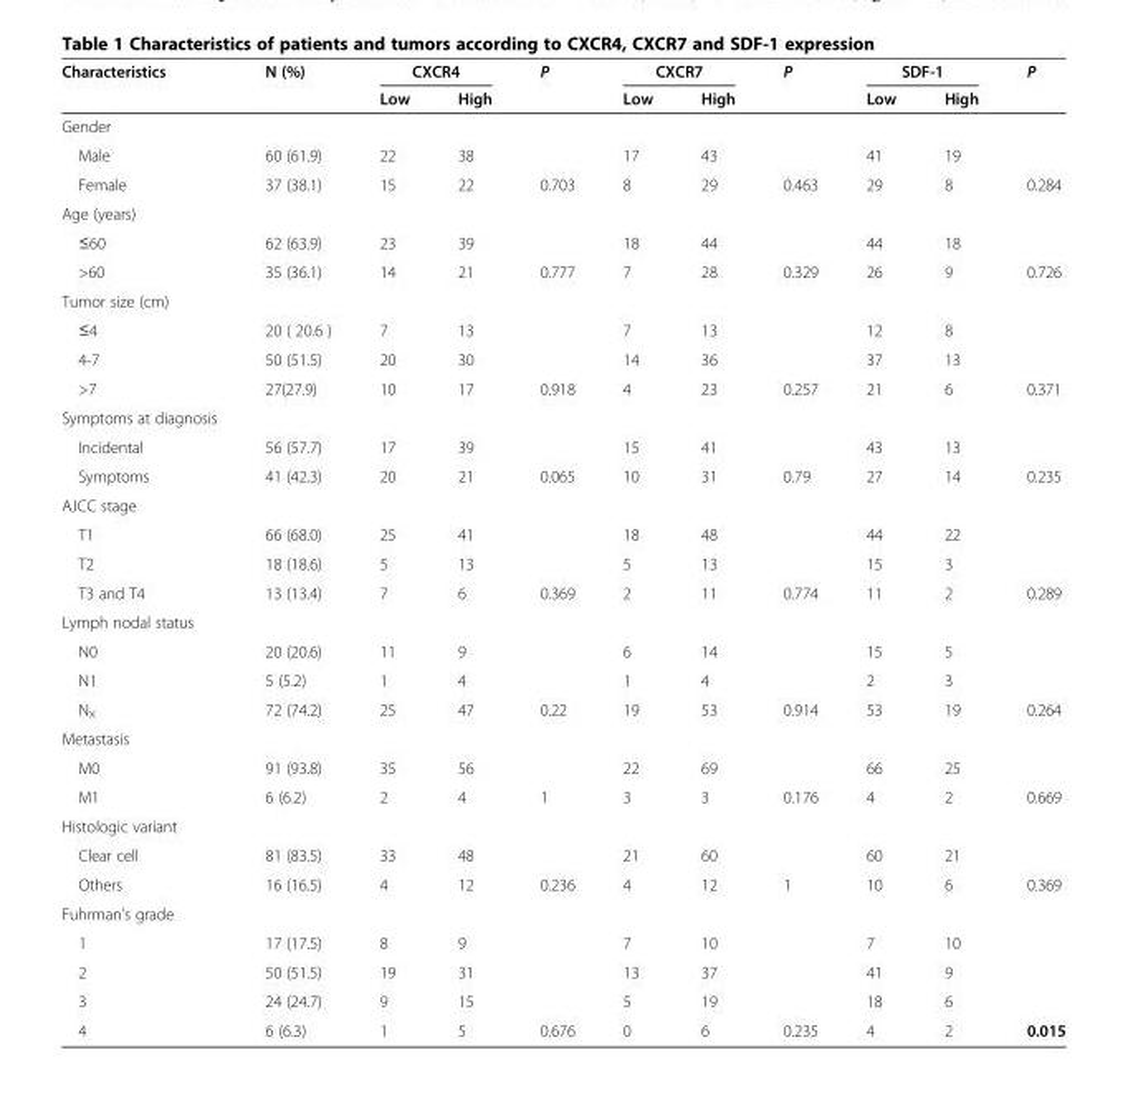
<table><thead><tr><td rowspan="2">Characteristics</td><td rowspan="2">N (%)</td><td colspan="2">CXCR4</td><td rowspan="2">P</td><td colspan="2">CXCR7</td><td rowspan="2">P</td><td colspan="2">SDF-1</td><td rowspan="2">P</td></tr><tr><td>Low</td><td>High</td><td>Low</td><td>High</td><td>Low</td><td>High</td></tr></thead><tbody><tr><td colspan="11">Gender</td></tr><tr><td>Male</td><td>60 (61.9)</td><td>22</td><td>38</td><td></td><td>17</td><td>43</td><td></td><td>41</td><td>19</td><td></td></tr><tr><td>Female</td><td>37 (38.1)</td><td>15</td><td>22</td><td>0.703</td><td>8</td><td>29</td><td>0.463</td><td>29</td><td>8</td><td>0.284</td></tr><tr><td colspan="11">Age (years)</td></tr><tr><td>≤60</td><td>62 (63.9)</td><td>23</td><td>39</td><td></td><td>18</td><td>44</td><td></td><td>44</td><td>18</td><td></td></tr><tr><td>&gt;60</td><td>35 (36.1)</td><td>14</td><td>21</td><td>0.777</td><td>7</td><td>28</td><td>0.329</td><td>26</td><td>9</td><td>0.726</td></tr><tr><td colspan="11">Tumor size (cm)</td></tr><tr><td>≤4</td><td>20 ( 20.6 )</td><td>7</td><td>13</td><td></td><td>7</td><td>13</td><td></td><td>12</td><td>8</td><td></td></tr><tr><td>4-7</td><td>50 (51.5)</td><td>20</td><td>30</td><td></td><td>14</td><td>36</td><td></td><td>37</td><td>13</td><td></td></tr><tr><td>&gt;7</td><td>27(27.9)</td><td>10</td><td>17</td><td>0.918</td><td>4</td><td>23</td><td>0.257</td><td>21</td><td>6</td><td>0.371</td></tr><tr><td colspan="11">Symptoms at diagnosis</td></tr><tr><td>Incidental</td><td>56 (57.7)</td><td>17</td><td>39</td><td></td><td>15</td><td>41</td><td></td><td>43</td><td>13</td><td></td></tr><tr><td>Symptoms</td><td>41 (42.3)</td><td>20</td><td>21</td><td>0.065</td><td>10</td><td>31</td><td>0.79</td><td>27</td><td>14</td><td>0.235</td></tr><tr><td colspan="11">AJCC stage</td></tr><tr><td>T1</td><td>66 (68.0)</td><td>25</td><td>41</td><td></td><td>18</td><td>48</td><td></td><td>44</td><td>22</td><td></td></tr><tr><td>T2</td><td>18 (18.6)</td><td>5</td><td>13</td><td></td><td>5</td><td>13</td><td></td><td>15</td><td>3</td><td></td></tr><tr><td>T3 and T4</td><td>13 (13.4)</td><td>7</td><td>6</td><td>0.369</td><td>2</td><td>11</td><td>0.774</td><td>11</td><td>2</td><td>0.289</td></tr><tr><td colspan="11">Lymph nodal status</td></tr><tr><td>N0</td><td>20 (20.6)</td><td>11</td><td>9</td><td></td><td>6</td><td>14</td><td></td><td>15</td><td>5</td><td></td></tr><tr><td>N1</td><td>5 (5.2)</td><td>1</td><td>4</td><td></td><td>1</td><td>4</td><td></td><td>2</td><td>3</td><td></td></tr><tr><td>N<sub>X</sub></td><td>72 (74.2)</td><td>25</td><td>47</td><td>0.22</td><td>19</td><td>53</td><td>0.914</td><td>53</td><td>19</td><td>0.264</td></tr><tr><td colspan="11">Metastasis</td></tr><tr><td>M0</td><td>91 (93.8)</td><td>35</td><td>56</td><td></td><td>22</td><td>69</td><td></td><td>66</td><td>25</td><td></td></tr><tr><td>M1</td><td>6 (6.2)</td><td>2</td><td>4</td><td>1</td><td>3</td><td>3</td><td>0.176</td><td>4</td><td>2</td><td>0.669</td></tr><tr><td colspan="11">Histologic variant</td></tr><tr><td>Clear cell</td><td>81 (83.5)</td><td>33</td><td>48</td><td></td><td>21</td><td>60</td><td></td><td>60</td><td>21</td><td></td></tr><tr><td>Others</td><td>16 (16.5)</td><td>4</td><td>12</td><td>0.236</td><td>4</td><td>12</td><td>1</td><td>10</td><td>6</td><td>0.369</td></tr><tr><td colspan="11">Fuhrman’s grade</td></tr><tr><td>1</td><td>17 (17.5)</td><td>8</td><td>9</td><td></td><td>7</td><td>10</td><td></td><td>7</td><td>10</td><td></td></tr><tr><td>2</td><td>50 (51.5)</td><td>19</td><td>31</td><td></td><td>13</td><td>37</td><td></td><td>41</td><td>9</td><td></td></tr><tr><td>3</td><td>24 (24.7)</td><td>9</td><td>15</td><td></td><td>5</td><td>19</td><td></td><td>18</td><td>6</td><td></td></tr><tr><td>4</td><td>6 (6.3)</td><td>1</td><td>5</td><td>0.676</td><td>0</td><td>6</td><td>0.235</td><td>4</td><td>2</td><td>0.015</td></tr></tbody></table>